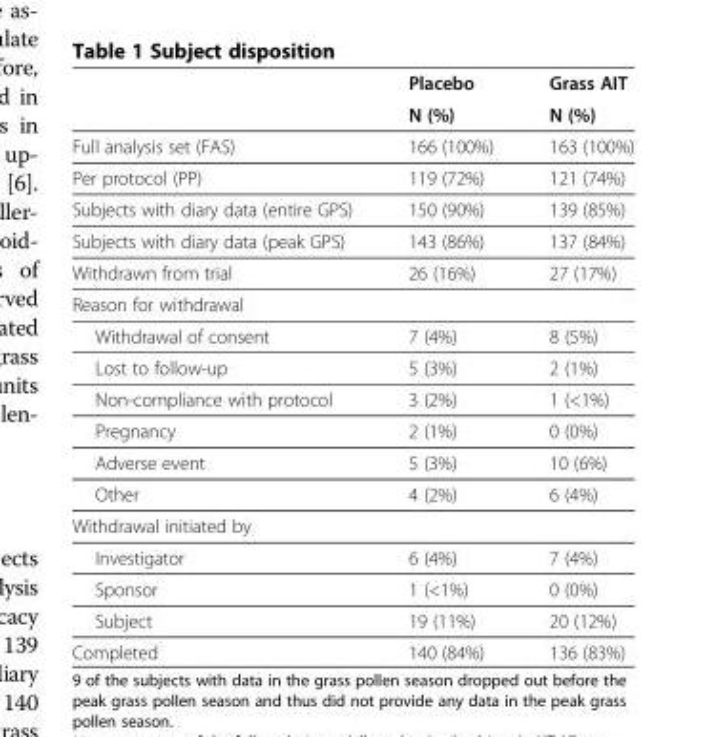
<table><thead><tr><td rowspan="2"></td><td rowspan="2">Placebo N (%)</td><td rowspan="2">Grass AIT N (%)</td></tr><tr></tr></thead><tbody><tr><td>Full analysis set (FAS)</td><td>166 (100%)</td><td>163 (100%)</td></tr><tr><td>Per protocol (PP)</td><td>119 (72%)</td><td>121 (74%)</td></tr><tr><td>Subjects with diary data (entire GPS)</td><td>150 (90%)</td><td>139 (85%)</td></tr><tr><td>Subjects with diary data (peak GPS)</td><td>143 (86%)</td><td>137 (84%)</td></tr><tr><td>Withdrawn from trial</td><td>26 (16%)</td><td>27 (17%)</td></tr><tr><td colspan="3">Reason for withdrawal</td></tr><tr><td>Withdrawal of consent</td><td>7 (4%)</td><td>8 (5%)</td></tr><tr><td>Lost to follow-up</td><td>5 (3%)</td><td>2 (1%)</td></tr><tr><td>Non-compliance with protocol</td><td>3 (2%)</td><td>1 (&lt;1%)</td></tr><tr><td>Pregnancy</td><td>2 (1%)</td><td>0 (0%)</td></tr><tr><td>Adverse event</td><td>5 (3%)</td><td>10 (6%)</td></tr><tr><td>Other</td><td>4 (2%)</td><td>6 (4%)</td></tr><tr><td colspan="3">Withdrawal initiated by</td></tr><tr><td>Investigator</td><td>6 (4%)</td><td>7 (4%)</td></tr><tr><td>Sponsor</td><td>1 (&lt;1%)</td><td>0 (0%)</td></tr><tr><td>Subject</td><td>19 (11%)</td><td>20 (12%)</td></tr><tr><td>Completed</td><td>140 (84%)</td><td>136 (83%)</td></tr></tbody></table>